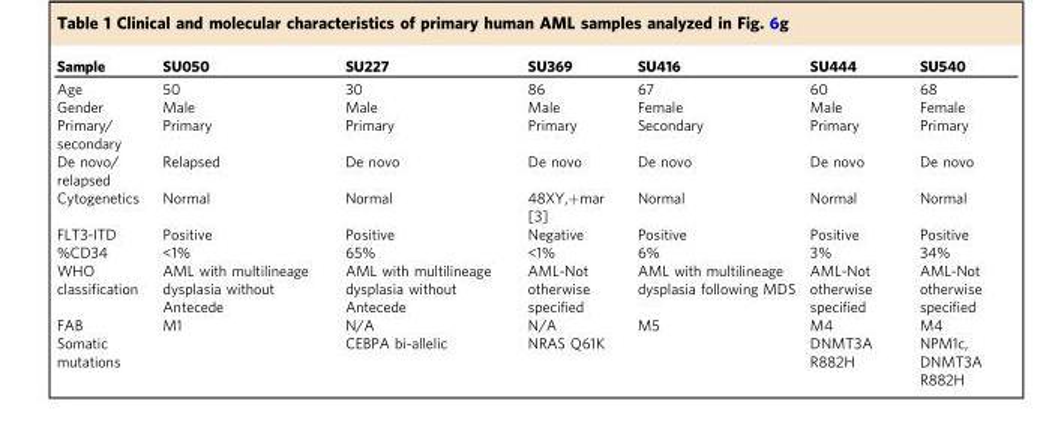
<table><thead><tr><td>Sample</td><td>SU050</td><td>SU227</td><td>SU369</td><td>SU416</td><td>SU444</td><td>SU540</td></tr></thead><tbody><tr><td>Age</td><td>50</td><td>30</td><td>86</td><td>67</td><td>60</td><td>68</td></tr><tr><td>Gender</td><td>Male</td><td>Male</td><td>Male</td><td>Female</td><td>Male</td><td>Female</td></tr><tr><td>Primary/ secondary</td><td>Primary</td><td>Primary</td><td>Primary</td><td>Secondary</td><td>Primary</td><td>Primary</td></tr><tr><td>De novo/ relapsed</td><td>Relapsed</td><td>De novo</td><td>De novo</td><td>De novo</td><td>De novo</td><td>De novo</td></tr><tr><td>Cytogenetics</td><td>Normal</td><td>Normal</td><td>48XY,+mar [3]</td><td>Normal</td><td>Normal</td><td>Normal</td></tr><tr><td>FLT3-ITD</td><td>Positive</td><td>Positive</td><td>Negative</td><td>Positive</td><td>Positive</td><td>Positive</td></tr><tr><td>%CD34</td><td>&lt;1%</td><td>65%</td><td>&lt;1%</td><td>6%</td><td>3%</td><td>34%</td></tr><tr><td>WHO classification</td><td>AML with multilineage dysplasia without Antecede</td><td>AML with multilineage dysplasia without Antecede</td><td>AML-Not otherwise specified</td><td>AML with multilineage dysplasia following MDS</td><td>AML-Not otherwise specified</td><td>AML-Not otherwise specified</td></tr><tr><td>FAB</td><td>M1</td><td>N/A</td><td>N/A</td><td>M5</td><td>M4</td><td>M4</td></tr><tr><td>Somatic mutations</td><td></td><td>CEBPA bi-allelic</td><td>NRAS Q61K</td><td></td><td>DNMT3A R882H</td><td>NPM1c, DNMT3A R882H</td></tr></tbody></table>